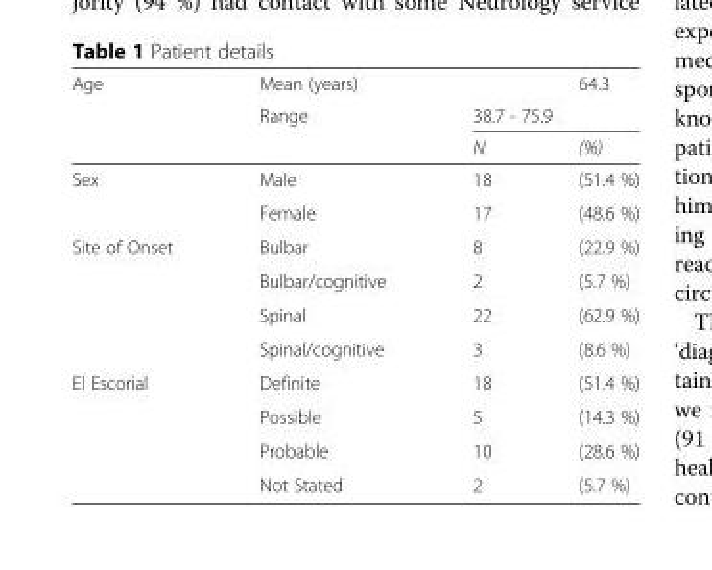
<table><thead><tr><td rowspan="3">Age</td><td rowspan="3">Mean (years) Range</td><td></td><td>64.3</td></tr><tr><td colspan="2">38.7 - 75.9</td></tr><tr><td>N</td><td>(%)</td></tr></thead><tbody><tr><td rowspan="2">Sex</td><td>Male</td><td>18</td><td>(51.4 %)</td></tr><tr><td>Female</td><td>17</td><td>(48.6 %)</td></tr><tr><td rowspan="4">Site of Onset</td><td>Bulbar</td><td>8</td><td>(22.9 %)</td></tr><tr><td>Bulbar/cognitive</td><td>2</td><td>(5.7 %)</td></tr><tr><td>Spinal</td><td>22</td><td>(62.9 %)</td></tr><tr><td>Spinal/cognitive</td><td>3</td><td>(8.6 %)</td></tr><tr><td rowspan="4">El Escorial</td><td>Definite</td><td>18</td><td>(51.4 %)</td></tr><tr><td>Possible</td><td>5</td><td>(14.3 %)</td></tr><tr><td>Probable</td><td>10</td><td>(28.6 %)</td></tr><tr><td>Not Stated</td><td>2</td><td>(5.7 %)</td></tr></tbody></table>